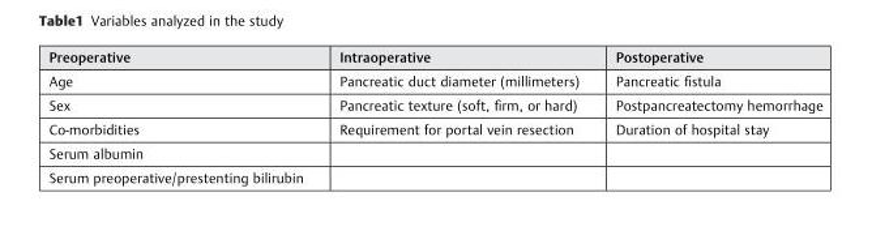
<table><thead><tr><td>Preoperative</td><td>Intraoperative</td><td>Postoperative</td></tr></thead><tbody><tr><td>Age</td><td>Pancreatic duct diameter (millimeters)</td><td>Pancreatic fistula</td></tr><tr><td>Sex</td><td>Pancreatic texture (soft, firm, or hard)</td><td>Postpancreatectomy hemorrhage</td></tr><tr><td>Co-morbidities</td><td>Requirement for portal vein resection</td><td>Duration of hospital stay</td></tr><tr><td colspan="3">Serum albumin</td></tr><tr><td>Serum preoperative/prestenting bilirubin</td><td></td><td></td></tr></tbody></table>